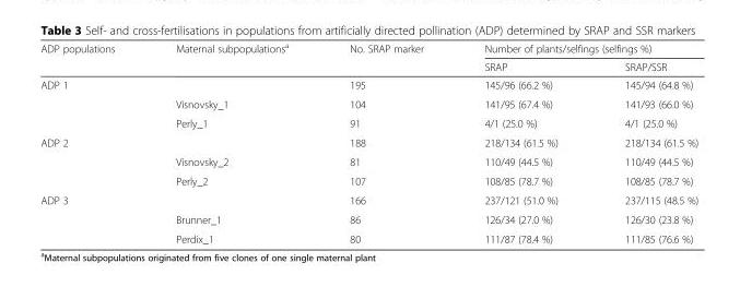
<table><thead><tr><td rowspan="2">ADP populations</td><td rowspan="2">Maternal subpopulations<sup>a</sup></td><td rowspan="2">No. SRAP marker</td><td colspan="2">Number of plants/selfings (selfings %)</td></tr><tr><td>SRAP</td><td>SRAP/SSR</td></tr></thead><tbody><tr><td rowspan="3">ADP 1</td><td></td><td>195</td><td>145/96 (66.2 %)</td><td>145/94 (64.8 %)</td></tr><tr><td>Visnovsky_1</td><td>104</td><td>141/95 (67.4 %)</td><td>141/93 (66.0 %)</td></tr><tr><td>Perly_1</td><td>91</td><td>4/1 (25.0 %)</td><td>4/1 (25.0 %)</td></tr><tr><td rowspan="3">ADP 2</td><td></td><td>188</td><td>218/134 (61.5 %)</td><td>218/134 (61.5 %)</td></tr><tr><td>Visnovsky_2</td><td>81</td><td>110/49 (44.5 %)</td><td>110/49 (44.5 %)</td></tr><tr><td>Perly_2</td><td>107</td><td>108/85 (78.7 %)</td><td>108/85 (78.7 %)</td></tr><tr><td rowspan="3">ADP 3</td><td></td><td>166</td><td>237/121 (51.0 %)</td><td>237/115 (48.5 %)</td></tr><tr><td>Brunner_1</td><td>86</td><td>126/34 (27.0 %)</td><td>126/30 (23.8 %)</td></tr><tr><td>Perdix_1</td><td>80</td><td>111/87 (78.4 %)</td><td>111/85 (76.6 %)</td></tr></tbody></table>